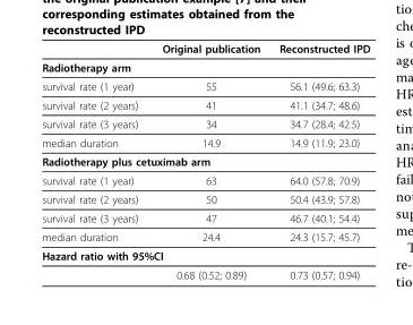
<table><thead><tr><td></td><td>Original publication</td><td>Reconstructed IPD</td></tr></thead><tbody><tr><td colspan="3">Radiotherapy arm</td></tr><tr><td>survival rate (1 year)</td><td>55</td><td>56.1 (49.6; 63.3)</td></tr><tr><td>survival rate (2 years)</td><td>41</td><td>41.1 (34.7; 48.6)</td></tr><tr><td>survival rate (3 years)</td><td>34</td><td>34.7 (28.4; 42.5)</td></tr><tr><td>median duration</td><td>14.9</td><td>14.9 (11.9; 23.0)</td></tr><tr><td colspan="3">Radiotherapy plus cetuximab arm</td></tr><tr><td>survival rate (1 year)</td><td>63</td><td>64.0 (57.8; 70.9)</td></tr><tr><td>survival rate (2 years)</td><td>50</td><td>50.4 (43.9; 57.8)</td></tr><tr><td>survival rate (3 years)</td><td>47</td><td>46.7 (40.1; 54.4)</td></tr><tr><td>median duration</td><td>24.4</td><td>24.3 (15.7; 45.7)</td></tr><tr><td colspan="3">Hazard ratio with 95%CI</td></tr><tr><td></td><td>0.68 (0.52; 0.89)</td><td>0.73 (0.57; 0.94)</td></tr></tbody></table>